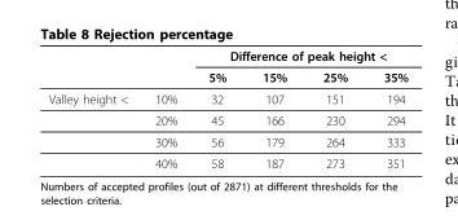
<table><thead><tr><td rowspan="2"></td><td rowspan="2"></td><td colspan="4">Difference of peak height &lt;</td></tr><tr><td>5%</td><td>15%</td><td>25%</td><td>35%</td></tr></thead><tbody><tr><td rowspan="4">Valley height &lt;</td><td>10%</td><td>32</td><td>107</td><td>151</td><td>194</td></tr><tr><td>20%</td><td>45</td><td>166</td><td>230</td><td>294</td></tr><tr><td>30%</td><td>56</td><td>179</td><td>264</td><td>333</td></tr><tr><td>40%</td><td>58</td><td>187</td><td>273</td><td>351</td></tr></tbody></table>